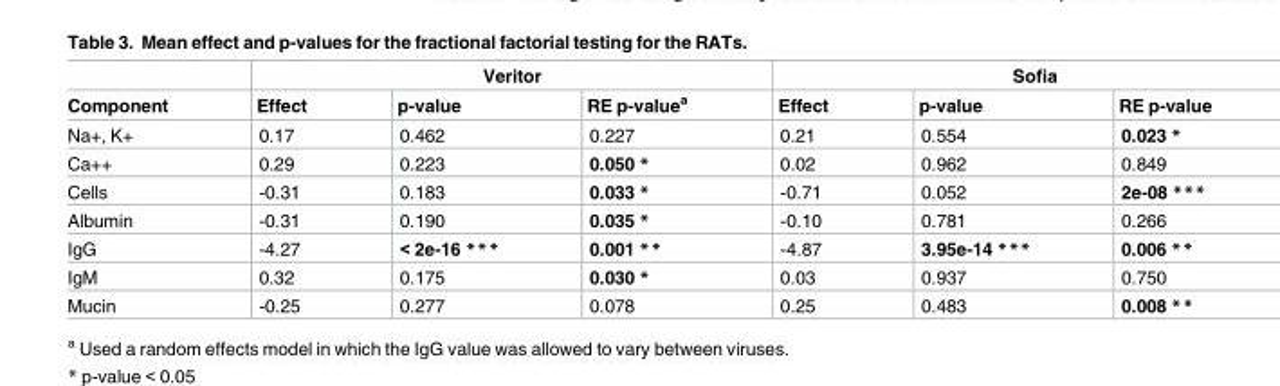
<table><thead><tr><td rowspan="2">Component</td><td colspan="3">Veritor</td><td colspan="3">Sofia</td></tr><tr><td>Effect</td><td>p-value</td><td>RE p-value<sup>a</sup></td><td>Effect</td><td>p-value</td><td>RE p-value</td></tr></thead><tbody><tr><td>Na+, K+</td><td>0.17</td><td>0.462</td><td>0.227</td><td>0.21</td><td>0.554</td><td>0.023 *</td></tr><tr><td>Ca++</td><td>0.29</td><td>0.223</td><td>0.050 *</td><td>0.02</td><td>0.962</td><td>0.849</td></tr><tr><td>Cells</td><td>-0.31</td><td>0.183</td><td>0.033 *</td><td>-0.71</td><td>0.052</td><td>2e-08 ***</td></tr><tr><td>Albumin</td><td>-0.31</td><td>0.190</td><td>0.035 *</td><td>-0.10</td><td>0.781</td><td>0.266</td></tr><tr><td>IgG</td><td>-4.27</td><td>&lt; 2e-16 ***</td><td>0.001 **</td><td>-4.87</td><td>3.95e-14 ***</td><td>0.006 **</td></tr><tr><td>IgM</td><td>0.32</td><td>0.175</td><td>0.030 *</td><td>0.03</td><td>0.937</td><td>0.750</td></tr><tr><td>Mucin</td><td>-0.25</td><td>0.277</td><td>0.078</td><td>0.25</td><td>0.483</td><td>0.008 **</td></tr></tbody></table>